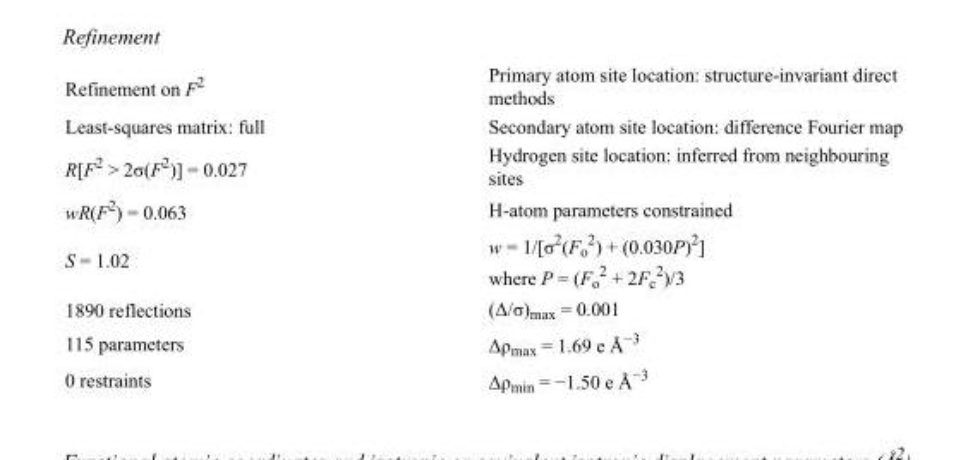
<table><tbody><tr><td>Refinement on F<sup>2</sup></td><td>Primary atom site location: structure-invariant direct methods</td></tr><tr><td>Least-squares matrix: full</td><td>Secondary atom site location: difference Fourier map</td></tr><tr><td>R[F<sup>2</sup> &gt; 2σ(F<sup>2</sup>)] = 0.027</td><td>Hydrogen site location: inferred from neighbouring sites</td></tr><tr><td>wR(F<sup>2</sup>) = 0.063</td><td>H-atom parameters constrained</td></tr><tr><td>S = 1.02</td><td>w = 1/[σ<sup>2</sup>(F<sub>o</sub> <sup>2</sup>) + (0.030P)<sup>2</sup>] where P = (F<sub>o</sub> <sup>2</sup> + 2F<sub>c</sub> <sup>2</sup>)/3</td></tr><tr><td>1890 reflections</td><td>(Δ/σ)<sub>max</sub> = 0.001</td></tr><tr><td>115 parameters</td><td>Δρ<sub>max</sub> = 1.69 e Å<sup>−3</sup></td></tr><tr><td>0 restraints</td><td>Δρ<sub>min</sub> = −1.50 e Å<sup>−3</sup></td></tr></tbody></table>